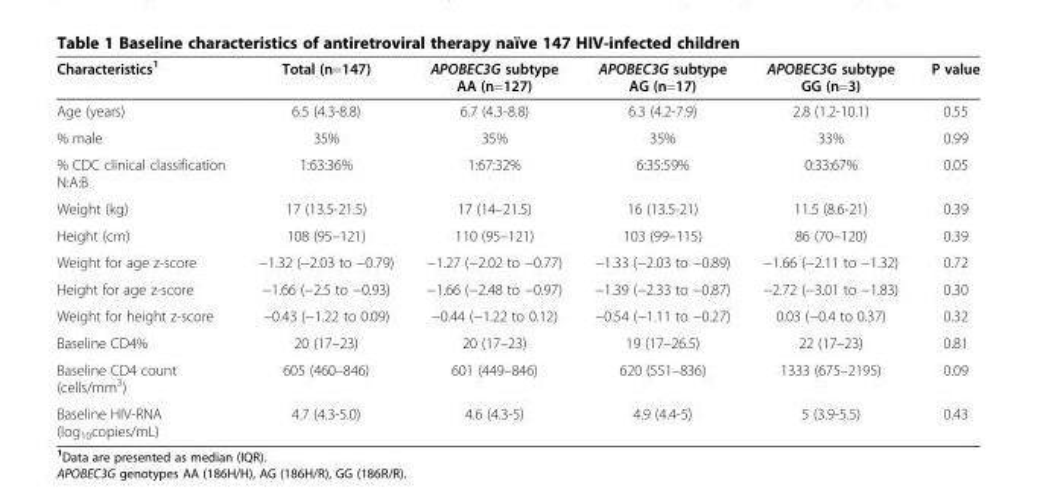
<table><thead><tr><td>Characteristics<sup>1</sup></td><td>Total (n=147)</td><td>APOBEC3G subtype AA (n=127)</td><td>APOBEC3G subtype AG (n=17)</td><td>APOBEC3G subtype GG (n=3)</td><td>P value</td></tr></thead><tbody><tr><td>Age (years)</td><td>6.5 (4.3-8.8)</td><td>6.7 (4.3-8.8)</td><td>6.3 (4.2-7.9)</td><td>2.8 (1.2-10.1)</td><td>0.55</td></tr><tr><td>% male</td><td>35%</td><td>35%</td><td>35%</td><td>33%</td><td>0.99</td></tr><tr><td>% CDC clinical classification N:A:B</td><td>1:63:36%</td><td>1:67:32%</td><td>6:35:59%</td><td>0:33:67%</td><td>0.05</td></tr><tr><td>Weight (kg)</td><td>17 (13.5-21.5)</td><td>17 (14–21.5)</td><td>16 (13.5-21)</td><td>11.5 (8.6-21)</td><td>0.39</td></tr><tr><td>Height (cm)</td><td>108 (95–121)</td><td>110 (95–121)</td><td>103 (99–115)</td><td>86 (70–120)</td><td>0.39</td></tr><tr><td>Weight for age z-score</td><td>−1.32 (−2.03 to −0.79)</td><td>−1.27 (−2.02 to −0.77)</td><td>−1.33 (−2.03 to −0.89)</td><td>−1.66 (−2.11 to −1.32)</td><td>0.72</td></tr><tr><td>Height for age z-score</td><td>−1.66 (−2.5 to −0.93)</td><td>−1.66 (−2.48 to −0.97)</td><td>−1.39 (−2.33 to −0.87)</td><td>−2.72 (−3.01 to −1.83)</td><td>0.30</td></tr><tr><td>Weight for height z-score</td><td>−0.43 (−1.22 to 0.09)</td><td>−0.44 (−1.22 to 0.12)</td><td>−0.54 (−1.11 to −0.27)</td><td>0.03 (−0.4 to 0.37)</td><td>0.32</td></tr><tr><td>Baseline CD4%</td><td>20 (17–23)</td><td>20 (17–23)</td><td>19 (17–26.5)</td><td>22 (17–23)</td><td>0.81</td></tr><tr><td>Baseline CD4 count (cells/mm<sup>3</sup>)</td><td>605 (460–846)</td><td>601 (449–846)</td><td>620 (551–836)</td><td>1333 (675–2195)</td><td>0.09</td></tr><tr><td>Baseline HIV-RNA (log<sub>10</sub>copies/mL)</td><td>4.7 (4.3-5.0)</td><td>4.6 (4.3-5)</td><td>4.9 (4.4-5)</td><td>5 (3.9-5.5)</td><td>0.43</td></tr></tbody></table>